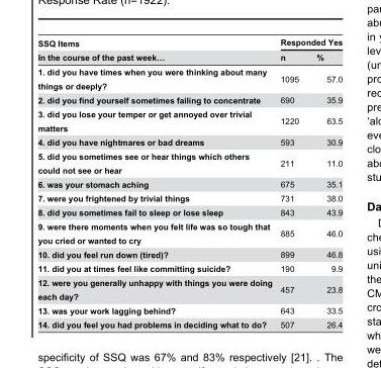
<table><thead><tr><td rowspan="2">SSQ Items In the course of the past week…</td><td colspan="2">Responded Yes</td></tr><tr><td>n</td><td>%</td></tr></thead><tbody><tr><td>1. did you have times when you were thinking about many things or deeply?</td><td>1095</td><td>57.0</td></tr><tr><td>2. did you find yourself sometimes failing to concentrate</td><td>690</td><td>35.9</td></tr><tr><td>3. did you lose your temper or get annoyed over trivial matters</td><td>1220</td><td>63.5</td></tr><tr><td>4. did you have nightmares or bad dreams</td><td>593</td><td>30.9</td></tr><tr><td>5. did you sometimes see or hear things which others could not see or hear</td><td>211</td><td>11.0</td></tr><tr><td>6. was your stomach aching</td><td>675</td><td>35.1</td></tr><tr><td>7. were you frightened by trivial things</td><td>731</td><td>38.0</td></tr><tr><td>8. did you sometimes fail to sleep or lose sleep</td><td>843</td><td>43.9</td></tr><tr><td>9. were there moments when you felt life was so tough that you cried or wanted to cry</td><td>885</td><td>46.0</td></tr><tr><td>10. did you feel run down (tired)?</td><td>899</td><td>46.8</td></tr><tr><td>11. did you at times feel like committing suicide?</td><td>190</td><td>9.9</td></tr><tr><td>12. were you generally unhappy with things you were doing each day?</td><td>457</td><td>23.8</td></tr><tr><td>13. was your work lagging behind?</td><td>643</td><td>33.5</td></tr><tr><td>14. did you feel you had problems in deciding what to do?</td><td>507</td><td>26.4</td></tr></tbody></table>